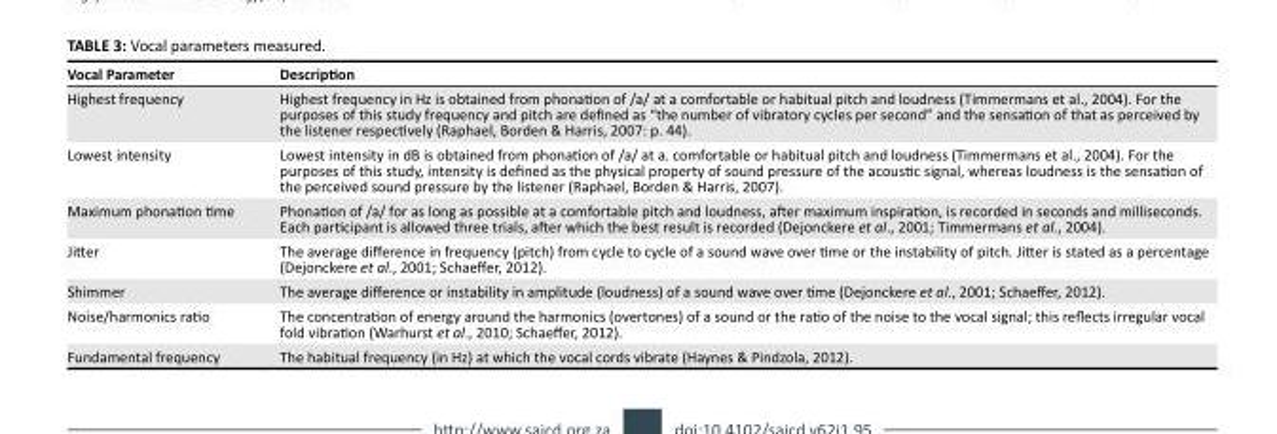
<table><thead><tr><td>Vocal Parameter</td><td>Description</td></tr></thead><tbody><tr><td>Highest frequency</td><td>Highest frequency in Hz is obtained from phonation of /a/ at a comfortable or habitual pitch and loudness (Timmermans et al., 2004). For the purposes of this study frequency and pitch are defined as “the number of vibratory cycles per second” and the sensation of that as perceived by the listener respectively (Raphael, Borden &amp; Harris, 2007: p. 44).</td></tr><tr><td>Lowest intensity</td><td>Lowest intensity in dB is obtained from phonation of /a/ at a. comfortable or habitual pitch and loudness (Timmermans et al., 2004). For the purposes of this study, intensity is defined as the physical property of sound pressure of the acoustic signal, whereas loudness is the sensation of the perceived sound pressure by the listener (Raphael, Borden &amp; Harris, 2007).</td></tr><tr><td>Maximum phonation time</td><td>Phonation of /a/ for as long as possible at a comfortable pitch and loudness, after maximum inspiration, is recorded in seconds and milliseconds. Each participant is allowed three trials, after which the best result is recorded (Dejonckere et al., 2001; Timmermans et al., 2004).</td></tr><tr><td>Jitter</td><td>The average difference in frequency (pitch) from cycle to cycle of a sound wave over time or the instability of pitch. Jitter is stated as a percentage (Dejonckere et al., 2001; Schaeffer, 2012).</td></tr><tr><td>Shimmer</td><td>The average difference or instability in amplitude (loudness) of a sound wave over time (Dejonckere et al., 2001; Schaeffer, 2012).</td></tr><tr><td>Noise/harmonics ratio</td><td>The concentration of energy around the harmonics (overtones) of a sound or the ratio of the noise to the vocal signal; this reflects irregular vocal fold vibration (Warhurst et al., 2010; Schaeffer, 2012).</td></tr><tr><td>Fundamental frequency</td><td>The habitual frequency (in Hz) at which the vocal cords vibrate (Haynes &amp; Pindzola, 2012).</td></tr></tbody></table>